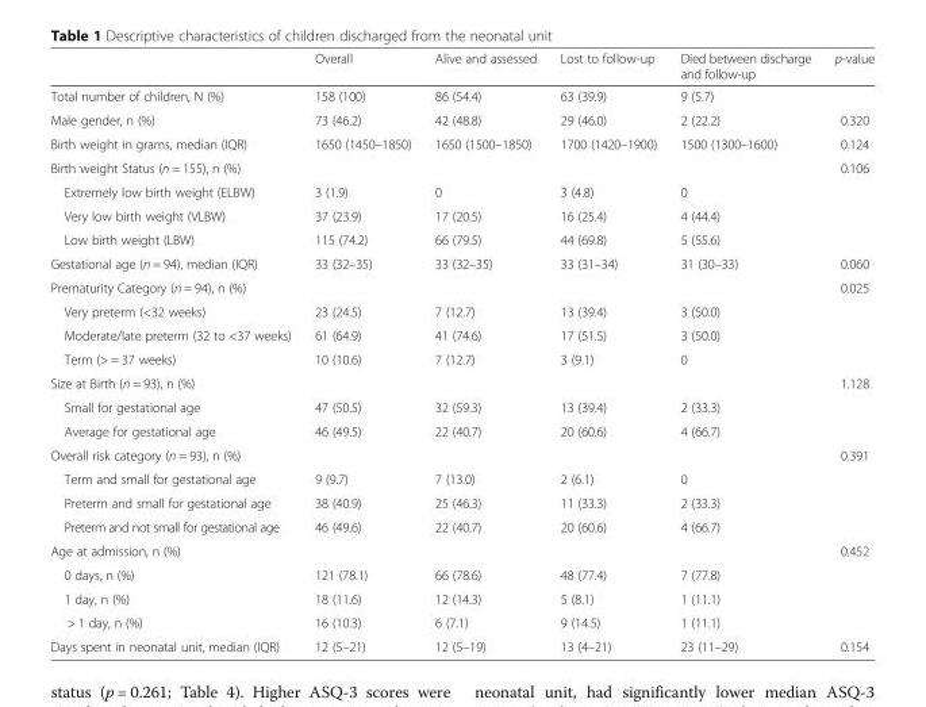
<table><thead><tr><td></td><td>Overall</td><td>Alive and assessed</td><td>Lost to follow-up</td><td>Died between discharge and follow-up</td><td>p-value</td></tr></thead><tbody><tr><td>Total number of children, N (%)</td><td>158 (100)</td><td>86 (54.4)</td><td>63 (39.9)</td><td>9 (5.7)</td><td></td></tr><tr><td>Male gender, n (%)</td><td>73 (46.2)</td><td>42 (48.8)</td><td>29 (46.0)</td><td>2 (22.2)</td><td>0.320</td></tr><tr><td>Birth weight in grams, median (IQR)</td><td>1650 (1450–1850)</td><td>1650 (1500–1850)</td><td>1700 (1420–1900)</td><td>1500 (1300–1600)</td><td>0.124</td></tr><tr><td>Birth weight Status (n = 155), n (%)</td><td></td><td></td><td></td><td></td><td>0.106</td></tr><tr><td>Extremely low birth weight (ELBW)</td><td>3 (1.9)</td><td>0</td><td>3 (4.8)</td><td>0</td><td></td></tr><tr><td>Very low birth weight (VLBW)</td><td>37 (23.9)</td><td>17 (20.5)</td><td>16 (25.4)</td><td>4 (44.4)</td><td></td></tr><tr><td>Low birth weight (LBW)</td><td>115 (74.2)</td><td>66 (79.5)</td><td>44 (69.8)</td><td>5 (55.6)</td><td></td></tr><tr><td>Gestational age (n = 94), median (IQR)</td><td>33 (32–35)</td><td>33 (32–35)</td><td>33 (31–34)</td><td>31 (30–33)</td><td>0.060</td></tr><tr><td>Prematurity Category (n = 94), n (%)</td><td></td><td></td><td></td><td></td><td>0.025</td></tr><tr><td>Very preterm (&lt;32 weeks)</td><td>23 (24.5)</td><td>7 (12.7)</td><td>13 (39.4)</td><td>3 (50.0)</td><td></td></tr><tr><td>Moderate/late preterm (32 to &lt;37 weeks)</td><td>61 (64.9)</td><td>41 (74.6)</td><td>17 (51.5)</td><td>3 (50.0)</td><td></td></tr><tr><td>Term (&gt; = 37 weeks)</td><td>10 (10.6)</td><td>7 (12.7)</td><td>3 (9.1)</td><td>0</td><td></td></tr><tr><td>Size at Birth (n = 93), n (%)</td><td></td><td></td><td></td><td></td><td>1.128</td></tr><tr><td>Small for gestational age</td><td>47 (50.5)</td><td>32 (59.3)</td><td>13 (39.4)</td><td>2 (33.3)</td><td></td></tr><tr><td>Average for gestational age</td><td>46 (49.5)</td><td>22 (40.7)</td><td>20 (60.6)</td><td>4 (66.7)</td><td></td></tr><tr><td>Overall risk category (n = 93), n (%)</td><td></td><td></td><td></td><td></td><td>0.391</td></tr><tr><td>Term and small for gestational age</td><td>9 (9.7)</td><td>7 (13.0)</td><td>2 (6.1)</td><td>0</td><td></td></tr><tr><td>Preterm and small for gestational age</td><td>38 (40.9)</td><td>25 (46.3)</td><td>11 (33.3)</td><td>2 (33.3)</td><td></td></tr><tr><td>Preterm and not small for gestational age</td><td>46 (49.6)</td><td>22 (40.7)</td><td>20 (60.6)</td><td>4 (66.7)</td><td></td></tr><tr><td>Age at admission, n (%)</td><td></td><td></td><td></td><td></td><td>0.452</td></tr><tr><td>0 days, n (%)</td><td>121 (78.1)</td><td>66 (78.6)</td><td>48 (77.4)</td><td>7 (77.8)</td><td></td></tr><tr><td>1 day, n (%)</td><td>18 (11.6)</td><td>12 (14.3)</td><td>5 (8.1)</td><td>1 (11.1)</td><td></td></tr><tr><td>&gt; 1 day, n (%)</td><td>16 (10.3)</td><td>6 (7.1)</td><td>9 (14.5)</td><td>1 (11.1)</td><td></td></tr><tr><td>Days spent in neonatal unit, median (IQR)</td><td>12 (5–21)</td><td>12 (5–19)</td><td>13 (4–21)</td><td>23 (11–29)</td><td>0.154</td></tr></tbody></table>